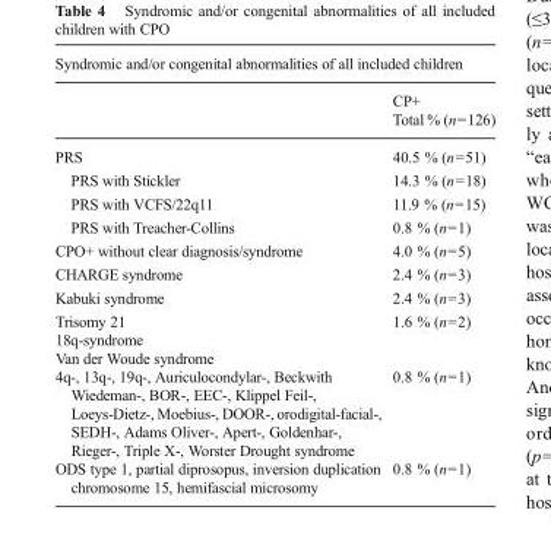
<table><thead><tr><td colspan="2">Syndromic and/or congenital abnormalities of all included children</td></tr><tr><td></td><td>CP+ Total % (n=126)</td></tr></thead><tbody><tr><td>PRS</td><td>40.5 % (n=51)</td></tr><tr><td>PRS with Stickler</td><td>14.3 % (n=18)</td></tr><tr><td>PRS with VCFS/22q11</td><td>11.9 % (n=15)</td></tr><tr><td>PRS with Treacher-Collins</td><td>0.8 % (n=1)</td></tr><tr><td>CPO+ without clear diagnosis/syndrome</td><td>4.0 % (n=5)</td></tr><tr><td>CHARGE syndrome</td><td>2.4 % (n=3)</td></tr><tr><td>Kabuki syndrome</td><td>2.4 % (n=3)</td></tr><tr><td>Trisomy 21 18q-syndrome Van der Woude syndrome</td><td>1.6 % (n=2)</td></tr><tr><td>4q-, 13q-, 19q-, Auriculocondylar-, Beckwith Wiedeman-, BOR-, EEC-, Klippel Feil-, Loeys-Dietz-, Moebius-, DOOR-, orodigital-facial-, SEDH-, Adams Oliver-, Apert-, Goldenhar-, Rieger-, Triple X-, Worster Drought syndrome</td><td>0.8 % (n=1)</td></tr><tr><td>ODS type 1, partial diprosopus, inversion duplication chromosome 15, hemifascial microsomy</td><td>0.8 % (n=1)</td></tr></tbody></table>